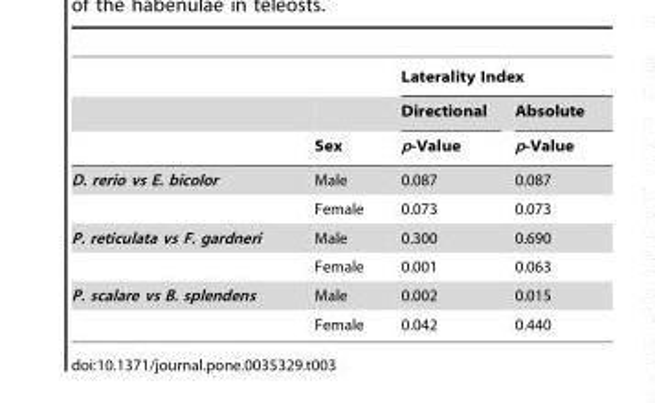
<table><thead><tr><td rowspan="3"></td><td rowspan="3">Sex</td><td colspan="2">Laterality Index</td></tr><tr><td rowspan="2">Directional p-Value</td><td rowspan="2">Absolute p-Value</td></tr><tr></tr></thead><tbody><tr><td rowspan="2">D. rerio vs E. bicolor</td><td>Male</td><td>0.087</td><td>0.087</td></tr><tr><td>Female</td><td>0.073</td><td>0.073</td></tr><tr><td rowspan="2">P. reticulata vs F. gardneri</td><td>Male</td><td>0.300</td><td>0.690</td></tr><tr><td>Female</td><td>0.001</td><td>0.063</td></tr><tr><td rowspan="2">P. scalare vs B. splendens</td><td>Male</td><td>0.002</td><td>0.015</td></tr><tr><td>Female</td><td>0.042</td><td>0.440</td></tr></tbody></table>